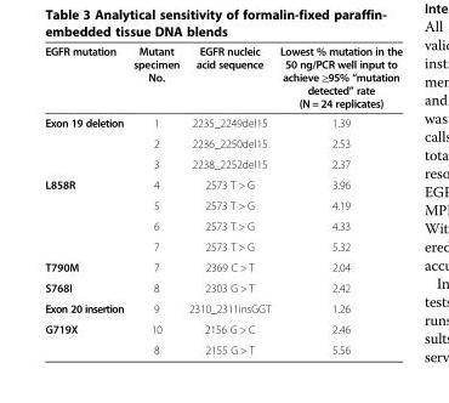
<table><thead><tr><td>EGFR mutation</td><td>Mutant specimen No.</td><td>EGFR nucleic acid sequence</td><td>Lowest % mutation in the 50 ng/PCR well input to achieve ≥95% “mutation detected” rate (N = 24 replicates)</td></tr></thead><tbody><tr><td rowspan="3">Exon 19 deletion</td><td>1</td><td>2235_2249del15</td><td>1.39</td></tr><tr><td>2</td><td>2236_2250del15</td><td>2.53</td></tr><tr><td>3</td><td>2238_2252del15</td><td>2.37</td></tr><tr><td rowspan="4">L858R</td><td>4</td><td>2573 T &gt; G</td><td>3.96</td></tr><tr><td>5</td><td>2573 T &gt; G</td><td>4.19</td></tr><tr><td>6</td><td>2573 T &gt; G</td><td>4.33</td></tr><tr><td>7</td><td>2573 T &gt; G</td><td>5.32</td></tr><tr><td>T790M</td><td>7</td><td>2369 C &gt; T</td><td>2.04</td></tr><tr><td>S768I</td><td>8</td><td>2303 G &gt; T</td><td>2.42</td></tr><tr><td>Exon 20 insertion</td><td>9</td><td>2310_2311insGGT</td><td>1.26</td></tr><tr><td rowspan="2">G719X</td><td>10</td><td>2156 G &gt; C</td><td>2.46</td></tr><tr><td>8</td><td>2155 G &gt; T</td><td>5.56</td></tr></tbody></table>